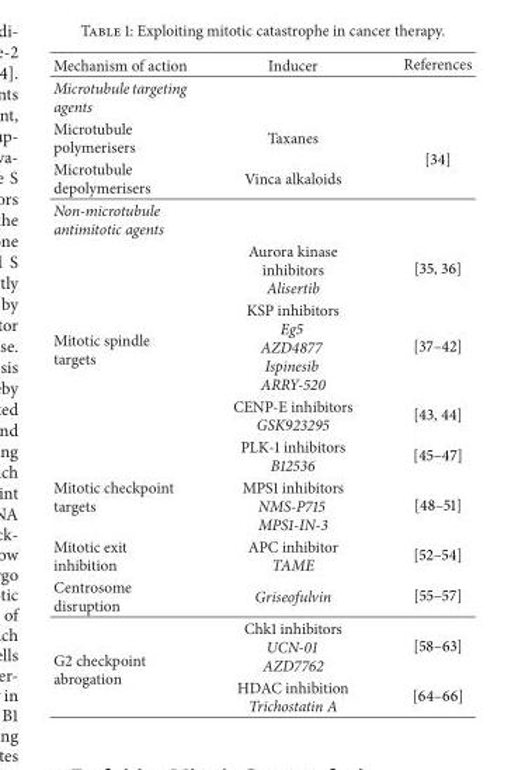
<table><thead><tr><td>Mechanism of action</td><td>Inducer</td><td>References</td></tr></thead><tbody><tr><td colspan="3">Microtubule targeting agents</td></tr><tr><td>Microtubule polymerisers</td><td>Taxanes</td><td rowspan="2">[34]</td></tr><tr><td>Microtubule depolymerisers</td><td>Vinca alkaloids</td></tr><tr><td colspan="3">Non-microtubule antimitotic agents</td></tr><tr><td rowspan="4">Mitotic spindle targets</td><td>Aurora kinase inhibitors Alisertib</td><td>[35, 36]</td></tr><tr><td>KSP inhibitors Eg5 AZD4877 Ispinesib ARRY-520</td><td>[37–42]</td></tr><tr><td>CENP-E inhibitors GSK923295</td><td>[43, 44]</td></tr><tr><td>PLK-1 inhibitors B12536</td><td>[45–47]</td></tr><tr><td>Mitotic checkpoint targets</td><td>MPS1 inhibitors NMS-P715 MPS1-IN-3</td><td>[48–51]</td></tr><tr><td>Mitotic exit inhibition</td><td>APC inhibitor TAME</td><td>[52–54]</td></tr><tr><td>Centrosome disruption</td><td>Griseofulvin</td><td>[55–57]</td></tr><tr><td rowspan="2">G2 checkpoint abrogation</td><td>Chk1 inhibitors UCN-01 AZD7762</td><td>[58–63]</td></tr><tr><td>HDAC inhibition Trichostatin A</td><td>[64–66]</td></tr></tbody></table>